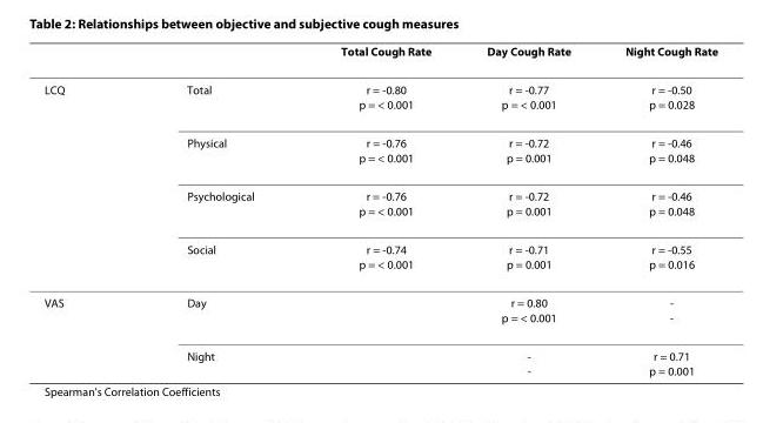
<table><thead><tr><td></td><td></td><td>Total Cough Rate</td><td>Day Cough Rate</td><td>Night Cough Rate</td></tr></thead><tbody><tr><td rowspan="4">LCQ</td><td>Total</td><td>r = -0.80 p = &lt; 0.001</td><td>r = -0.77 p = &lt; 0.001</td><td>r = -0.50 p = 0.028</td></tr><tr><td>Physical</td><td>r = -0.76 p = &lt; 0.001</td><td>r = -0.72 p = 0.001</td><td>r = -0.46 p = 0.048</td></tr><tr><td>Psychological</td><td>r = -0.76 p = &lt; 0.001</td><td>r = -0.72 p = 0.001</td><td>r = -0.46 p = 0.048</td></tr><tr><td>Social</td><td>r = -0.74 p = &lt; 0.001</td><td>r = -0.71 p = 0.001</td><td>r = -0.55 p = 0.016</td></tr><tr><td rowspan="2">VAS</td><td>Day</td><td></td><td>r = 0.80 p = &lt; 0.001</td><td>- -</td></tr><tr><td>Night</td><td></td><td>- -</td><td>r = 0.71 p = 0.001</td></tr></tbody></table>